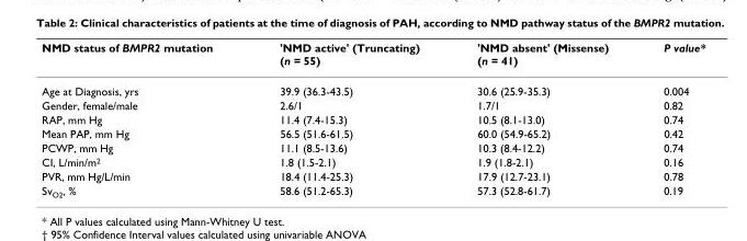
<table><thead><tr><td>NMD status of BMPR2 mutation</td><td>&#x27;NMD active&#x27; (Truncating) (n = 55)</td><td>&#x27;NMD absent&#x27; (Missense) (n = 41)</td><td>P value*</td></tr></thead><tbody><tr><td>Age at Diagnosis, yrs</td><td>39.9 (36.3-43.5)</td><td>30.6 (25.9-35.3)</td><td>0.004</td></tr><tr><td>Gender, female/male</td><td>2.6/1</td><td>1.7/1</td><td>0.82</td></tr><tr><td>RAP, mm Hg</td><td>11.4 (7.4-15.3)</td><td>10.5 (8.1-13.0)</td><td>0.74</td></tr><tr><td>Mean PAP, mm Hg</td><td>56.5 (51.6-61.5)</td><td>60.0 (54.9-65.2)</td><td>0.42</td></tr><tr><td>PCWP, mm Hg</td><td>11.1 (8.5-13.6)</td><td>10.3 (8.4-12.2)</td><td>0.74</td></tr><tr><td>CI, L/min/m<sup>2</sup></td><td>1.8 (1.5-2.1)</td><td>1.9 (1.8-2.1)</td><td>0.16</td></tr><tr><td>PVR, mm Hg/L/min</td><td>18.4 (11.4-25.3)</td><td>17.9 (12.7-23.1)</td><td>0.78</td></tr><tr><td>Sv<sub>O2</sub>, %</td><td>58.6 (51.2-65.3)</td><td>57.3 (52.8-61.7)</td><td>0.19</td></tr></tbody></table>